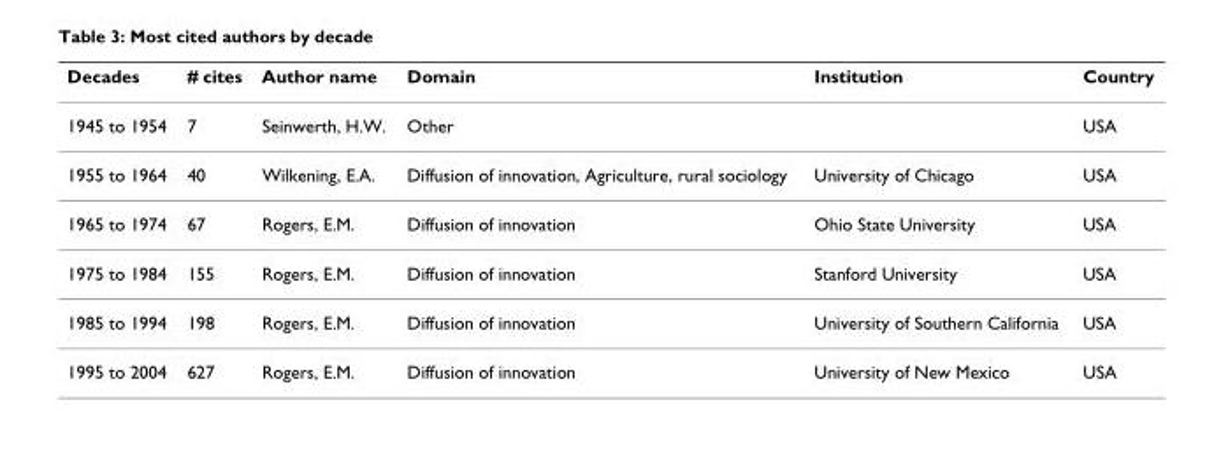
<table><thead><tr><td>Decades</td><td># cites</td><td>Author name</td><td>Domain</td><td>Institution</td><td>Country</td></tr></thead><tbody><tr><td>1945 to 1954</td><td>7</td><td>Seinwerth, H.W.</td><td>Other</td><td></td><td>USA</td></tr><tr><td>1955 to 1964</td><td>40</td><td>Wilkening, E.A.</td><td>Diffusion of innovation, Agriculture, rural sociology</td><td>University of Chicago</td><td>USA</td></tr><tr><td>1965 to 1974</td><td>67</td><td>Rogers, E.M.</td><td>Diffusion of innovation</td><td>Ohio State University</td><td>USA</td></tr><tr><td>1975 to 1984</td><td>155</td><td>Rogers, E.M.</td><td>Diffusion of innovation</td><td>Stanford University</td><td>USA</td></tr><tr><td>1985 to 1994</td><td>198</td><td>Rogers, E.M.</td><td>Diffusion of innovation</td><td>University of Southern California</td><td>USA</td></tr><tr><td>1995 to 2004</td><td>627</td><td>Rogers, E.M.</td><td>Diffusion of innovation</td><td>University of New Mexico</td><td>USA</td></tr></tbody></table>